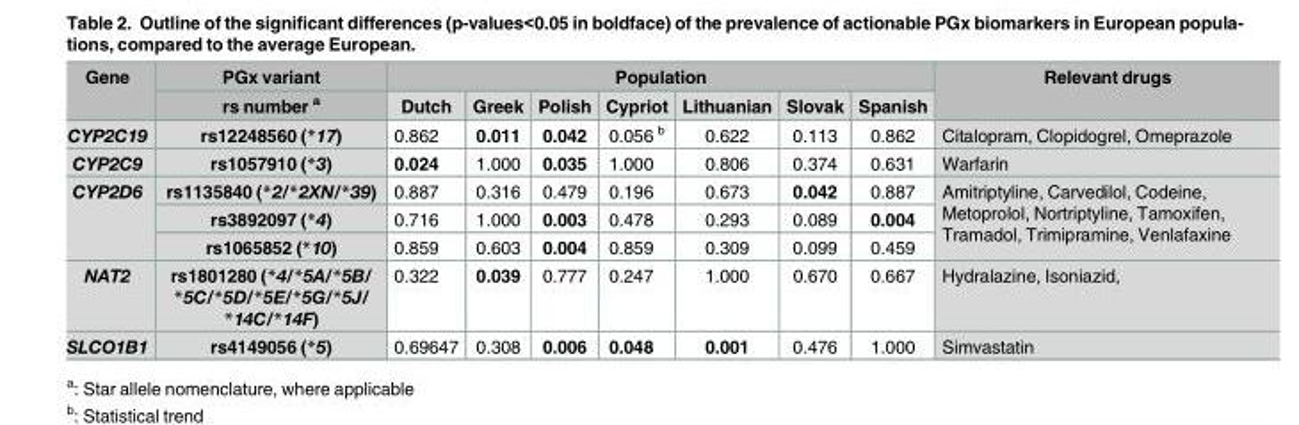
<table><thead><tr><td rowspan="2">Gene</td><td rowspan="2">PGx variant rs number <sup>a</sup></td><td colspan="7">Population</td><td rowspan="2">Relevant drugs</td></tr><tr><td>Dutch</td><td>Greek</td><td>Polish</td><td>Cypriot</td><td>Lithuanian</td><td>Slovak</td><td>Spanish</td></tr></thead><tbody><tr><td>CYP2C19</td><td>rs12248560 (*17)</td><td>0.862</td><td>0.011</td><td>0.042</td><td>0.056 <sup>b</sup></td><td>0.622</td><td>0.113</td><td>0.862</td><td>Citalopram, Clopidogrel, Omeprazole</td></tr><tr><td>CYP2C9</td><td>rs1057910 (*3)</td><td>0.024</td><td>1.000</td><td>0.035</td><td>1.000</td><td>0.806</td><td>0.374</td><td>0.631</td><td>Warfarin</td></tr><tr><td rowspan="3">CYP2D6</td><td>rs1135840 (*2/*2XN/*39)</td><td>0.887</td><td>0.316</td><td>0.479</td><td>0.196</td><td>0.673</td><td>0.042</td><td>0.887</td><td rowspan="3">Amitriptyline, Carvedilol, Codeine, Metoprolol, Nortriptyline, Tamoxifen, Tramadol, Trimipramine, Venlafaxine</td></tr><tr><td>rs3892097 (*4)</td><td>0.716</td><td>1.000</td><td>0.003</td><td>0.478</td><td>0.293</td><td>0.089</td><td>0.004</td></tr><tr><td>rs1065852 (*10)</td><td>0.859</td><td>0.603</td><td>0.004</td><td>0.859</td><td>0.309</td><td>0.099</td><td>0.459</td></tr><tr><td>NAT2</td><td>rs1801280 (*4/*5A/*5B/ *5C/*5D/*5E/*5G/*5J/ *14C/*14F)</td><td>0.322</td><td>0.039</td><td>0.777</td><td>0.247</td><td>1.000</td><td>0.670</td><td>0.667</td><td>Hydralazine, Isoniazid,</td></tr><tr><td>SLCO1B1</td><td>rs4149056 (*5)</td><td>0.69647</td><td>0.308</td><td>0.006</td><td>0.048</td><td>0.001</td><td>0.476</td><td>1.000</td><td>Simvastatin</td></tr></tbody></table>